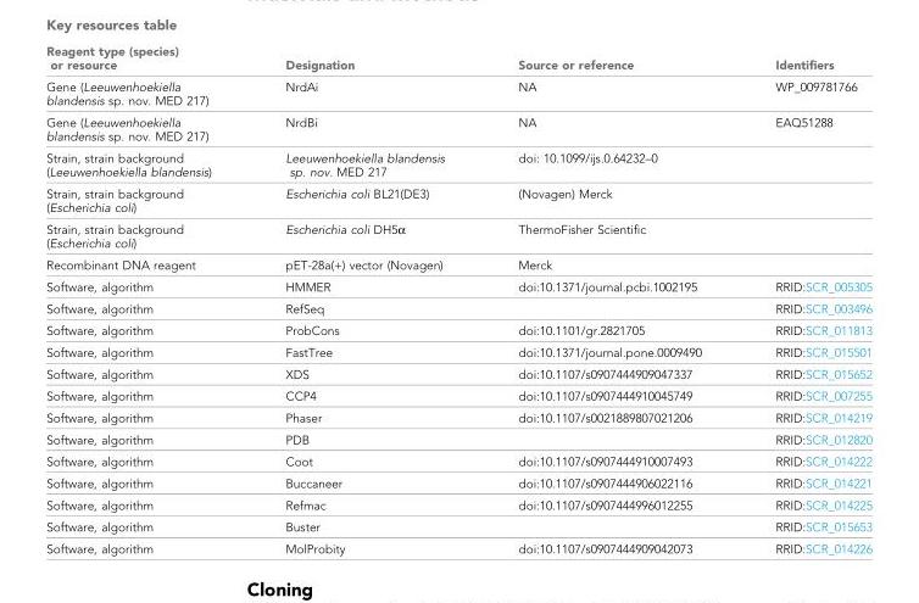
<table><thead><tr><td>Reagent type (species) or resource</td><td>Designation</td><td>Source or reference</td><td>Identifiers</td></tr></thead><tbody><tr><td>Gene (Leeuwenhoekiella blandensis sp. nov. MED 217)</td><td>NrdAi</td><td>NA</td><td>WP_009781766</td></tr><tr><td>Gene (Leeuwenhoekiella blandensis sp. nov. MED 217)</td><td>NrdBi</td><td>NA</td><td>EAQ51288</td></tr><tr><td>Strain, strain background (Leeuwenhoekiella blandensis)</td><td>Leeuwenhoekiella blandensis sp. nov. MED 217</td><td>doi: 10.1099/ijs.0.64232–0</td><td></td></tr><tr><td>Strain, strain background (Escherichia coli)</td><td>Escherichia coli BL21(DE3)</td><td>(Novagen) Merck</td><td></td></tr><tr><td>Strain, strain background (Escherichia coli)</td><td>Escherichia coli DH5α</td><td>ThermoFisher Scientific</td><td></td></tr><tr><td>Recombinant DNA reagent</td><td>pET-28a(+) vector (Novagen)</td><td>Merck</td><td></td></tr><tr><td>Software, algorithm</td><td>HMMER</td><td>doi:10.1371/journal.pcbi.1002195</td><td>RRID:SCR_005305</td></tr><tr><td>Software, algorithm</td><td>RefSeq</td><td></td><td>RRID:SCR_003496</td></tr><tr><td>Software, algorithm</td><td>ProbCons</td><td>doi:10.1101/gr.2821705</td><td>RRID:SCR_011813</td></tr><tr><td>Software, algorithm</td><td>FastTree</td><td>doi:10.1371/journal.pone.0009490</td><td>RRID:SCR_015501</td></tr><tr><td>Software, algorithm</td><td>XDS</td><td>doi:10.1107/s0907444909047337</td><td>RRID:SCR_015652</td></tr><tr><td>Software, algorithm</td><td>CCP4</td><td>doi:10.1107/s0907444910045749</td><td>RRID:SCR_007255</td></tr><tr><td>Software, algorithm</td><td>Phaser</td><td>doi:10.1107/s0021889807021206</td><td>RRID:SCR_014219</td></tr><tr><td>Software, algorithm</td><td>PDB</td><td></td><td>RRID:SCR_012820</td></tr><tr><td>Software, algorithm</td><td>Coot</td><td>doi:10.1107/s0907444910007493</td><td>RRID:SCR_014222</td></tr><tr><td>Software, algorithm</td><td>Buccaneer</td><td>doi:10.1107/s0907444906022116</td><td>RRID:SCR_014221</td></tr><tr><td>Software, algorithm</td><td>Refmac</td><td>doi:10.1107/s0907444996012255</td><td>RRID:SCR_014225</td></tr><tr><td>Software, algorithm</td><td>Buster</td><td></td><td>RRID:SCR_015653</td></tr><tr><td>Software, algorithm</td><td>MolProbity</td><td>doi:10.1107/s0907444909042073</td><td>RRID:SCR_014226</td></tr></tbody></table>